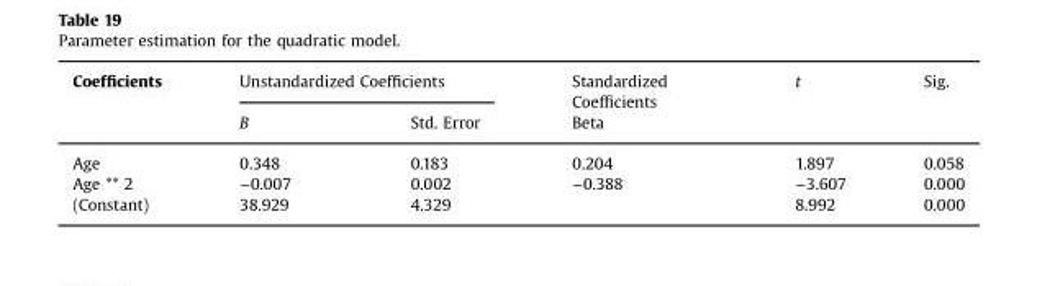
<table><thead><tr><td rowspan="2">Coefficients</td><td colspan="2">Unstandardized Coefficients</td><td rowspan="2">Standardized Coefficients Beta</td><td rowspan="2">t</td><td rowspan="2">Sig.</td></tr><tr><td>B</td><td>Std. Error</td></tr></thead><tbody><tr><td>Age</td><td>0.348</td><td>0.183</td><td>0.204</td><td>1.897</td><td>0.058</td></tr><tr><td>Age ** 2</td><td>−0.007</td><td>0.002</td><td>−0.388</td><td>−3.607</td><td>0.000</td></tr><tr><td>(Constant)</td><td>38.929</td><td>4.329</td><td></td><td>8.992</td><td>0.000</td></tr></tbody></table>